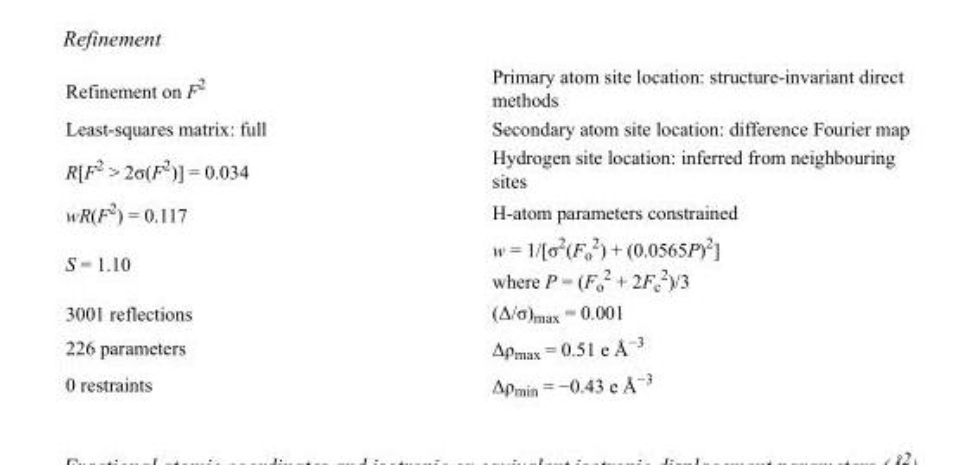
<table><tbody><tr><td>Refinement on F<sup>2</sup></td><td>Primary atom site location: structure-invariant direct methods</td></tr><tr><td>Least-squares matrix: full</td><td>Secondary atom site location: difference Fourier map</td></tr><tr><td>R[F<sup>2</sup> &gt; 2σ(F<sup>2</sup>)] = 0.034</td><td>Hydrogen site location: inferred from neighbouring sites</td></tr><tr><td>wR(F<sup>2</sup>) = 0.117</td><td>H-atom parameters constrained</td></tr><tr><td>S = 1.10</td><td>w = 1/[σ<sup>2</sup>(F<sub>o</sub> <sup>2</sup>) + (0.0565P)<sup>2</sup>] where P = (F<sub>o</sub> <sup>2</sup> + 2F<sub>c</sub> <sup>2</sup>)/3</td></tr><tr><td>3001 reflections</td><td>(Δ/σ)<sub>max</sub> = 0.001</td></tr><tr><td>226 parameters</td><td>Δρ<sub>max</sub> = 0.51 e Å<sup>−3</sup></td></tr><tr><td>0 restraints</td><td>Δρ<sub>min</sub> = −0.43 e Å<sup>−3</sup></td></tr></tbody></table>